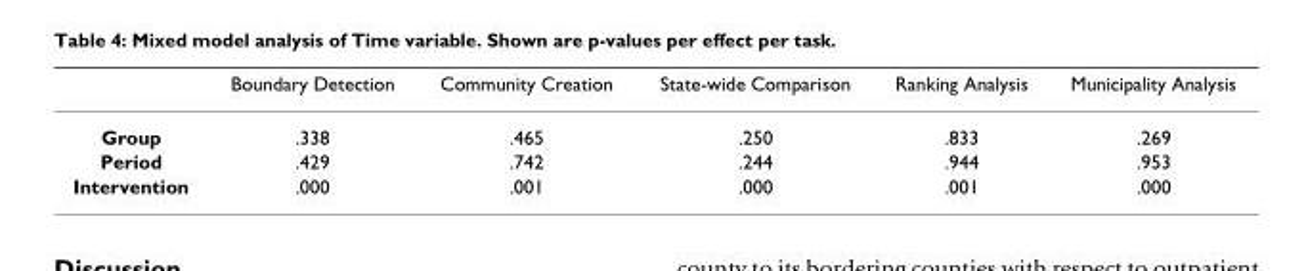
<table><thead><tr><td></td><td>Boundary Detection</td><td>Community Creation</td><td>State-wide Comparison</td><td>Ranking Analysis</td><td>Municipality Analysis</td></tr></thead><tbody><tr><td>Group</td><td>.338</td><td>.465</td><td>.250</td><td>.833</td><td>.269</td></tr><tr><td>Period</td><td>.429</td><td>.742</td><td>.244</td><td>.944</td><td>.953</td></tr><tr><td>Intervention</td><td>.000</td><td>.001</td><td>.000</td><td>.001</td><td>.000</td></tr></tbody></table>